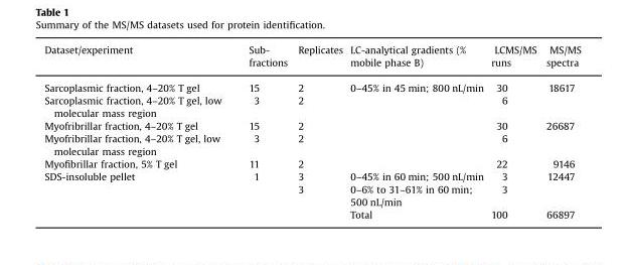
<table><tbody><tr><td>Dataset/experiment</td><td>Sub- fractions</td><td>Replicates</td><td>LC-analytical gradients (% mobile phase B)</td><td>LCMS/MS runs</td><td>MS/MS spectra</td></tr><tr><td>Sarcoplasmic fraction, 4–20% T gel</td><td>15</td><td>2</td><td rowspan="5">0–45% in 45 min; 800 nL/min</td><td>30</td><td rowspan="2">18617</td></tr><tr><td>Sarcoplasmic fraction, 4–20% T gel, low molecular mass region</td><td>3</td><td>2</td><td>6</td></tr><tr><td>Myofribrillar fraction, 4–20% T gel</td><td>15</td><td>2</td><td>30</td><td rowspan="2">26687</td></tr><tr><td>Myofribrillar fraction, 4–20% T gel, low molecular mass region</td><td>3</td><td>2</td><td>6</td></tr><tr><td>Myofibrillar fraction, 5% T gel</td><td>11</td><td>2</td><td>22</td><td>9146</td></tr><tr><td rowspan="3">SDS-insoluble pellet</td><td>1</td><td>3</td><td>0–45% in 60 min; 500 nL/min</td><td>3</td><td rowspan="2">12447</td></tr><tr><td></td><td>3</td><td>0–6% to 31–61% in 60 min; 500 nL/min</td><td>3</td></tr><tr><td></td><td></td><td>Total</td><td>100</td><td>66897</td></tr></tbody></table>